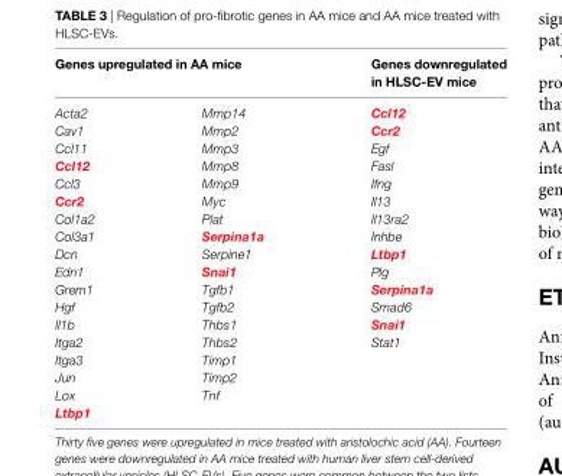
<table><thead><tr><td colspan="2">genes upregulated in aa mice</td><td rowspan="2">genes downregulated in hlsc-eV mice Ccl12</td></tr><tr><td>Acta2</td><td>Mmp14</td></tr></thead><tbody><tr><td>Cav1</td><td>Mmp2</td><td>Ccr2</td></tr><tr><td>Ccl11</td><td>Mmp3</td><td>Egf</td></tr><tr><td>Ccl12</td><td>Mmp8</td><td>Fasl</td></tr><tr><td>Ccl3</td><td>Mmp9</td><td>Ifng</td></tr><tr><td>Ccr2</td><td>Myc</td><td>Il13</td></tr><tr><td>Col1a2</td><td>Plat</td><td>Il13ra2</td></tr><tr><td>Col3a1</td><td>Serpina1a</td><td>Inhbe</td></tr><tr><td>Dcn</td><td>Serpine1</td><td>Ltbp1</td></tr><tr><td>Edn1</td><td>Snai1</td><td>Plg</td></tr><tr><td>Grem1</td><td>Tgfb1</td><td>Serpina1a</td></tr><tr><td>Hgf</td><td>Tgfb2</td><td>Smad6</td></tr><tr><td>Il1b</td><td>Thbs1</td><td>Snai1</td></tr><tr><td>Itga2</td><td>Thbs2</td><td>Stat1</td></tr><tr><td>Itga3</td><td>Timp1</td><td></td></tr><tr><td>Jun</td><td>Timp2</td><td></td></tr><tr><td>Lox</td><td>Tnf</td><td></td></tr><tr><td>Ltbp1</td><td></td><td></td></tr></tbody></table>